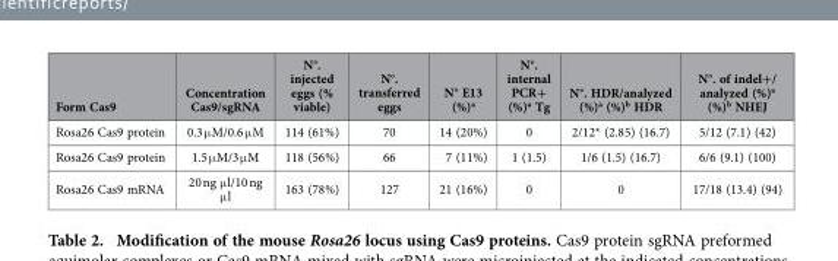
<table><thead><tr><td>Form Cas9</td><td>Concentration Cas9/sgRNA</td><td>N°. injected eggs (% viable)</td><td>N°. transferred eggs</td><td>N° E13 (%)<sup>a</sup></td><td>N°. internal PCR+ (%)<sup>a</sup> Tg</td><td>N°. HDR/analyzed (%)<sup>a</sup> (%)<sup>b</sup> HDR</td><td>N°. of indel+/ analyzed (%)<sup>a</sup> (%)<sup>b</sup> NHEJ</td></tr></thead><tbody><tr><td>Rosa26 Cas9 protein</td><td>0.3 μ M/0.6 μ M</td><td>114 (61%)</td><td>70</td><td>14 (20%)</td><td>0</td><td>2/12* (2.85) (16.7)</td><td>5/12 (7.1) (42)</td></tr><tr><td>Rosa26 Cas9 protein</td><td>1.5 μ M/3 μ M</td><td>118 (56%)</td><td>66</td><td>7 (11%)</td><td>1 (1.5)</td><td>1/6 (1.5) (16.7)</td><td>6/6 (9.1) (100)</td></tr><tr><td>Rosa26 Cas9 mRNA</td><td>20 ng μ l/10 ng μ l</td><td>163 (78%)</td><td>127</td><td>21 (16%)</td><td>0</td><td>0</td><td>17/18 (13.4) (94)</td></tr></tbody></table>